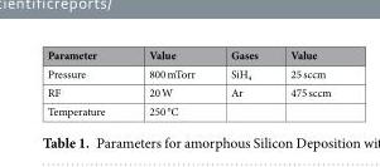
<table><thead><tr><td>Parameter</td><td>Value</td><td>Gases</td><td>Value</td></tr></thead><tbody><tr><td>Pressure</td><td>800 mTorr</td><td>SiH<sub>4</sub></td><td>25 sccm</td></tr><tr><td>RF</td><td>20 W</td><td>Ar</td><td>475 sccm</td></tr><tr><td>Temperature</td><td>250 °C</td><td></td><td></td></tr></tbody></table>